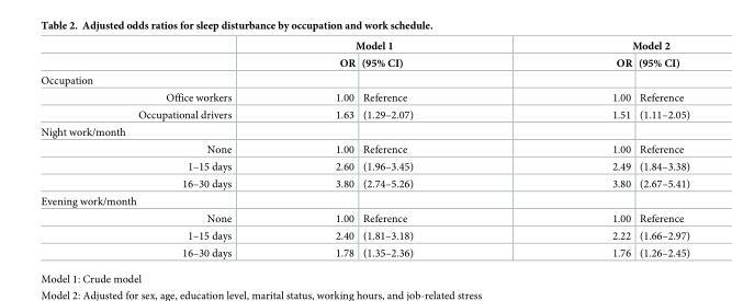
<table><thead><tr><td rowspan="2"></td><td colspan="2">Model 1</td><td colspan="2">Model 2</td></tr><tr><td>OR</td><td>(95% CI)</td><td>OR</td><td>(95% CI)</td></tr></thead><tbody><tr><td colspan="5">Occupation</td></tr><tr><td>Office workers</td><td>1.00</td><td>Reference</td><td>1.00</td><td>Reference</td></tr><tr><td>Occupational drivers</td><td>1.63</td><td>(1.29–2.07)</td><td>1.51</td><td>(1.11–2.05)</td></tr><tr><td colspan="5">Night work/month</td></tr><tr><td>None</td><td>1.00</td><td>Reference</td><td>1.00</td><td>Reference</td></tr><tr><td>1–15 days</td><td>2.60</td><td>(1.96–3.45)</td><td>2.49</td><td>(1.84–3.38)</td></tr><tr><td>16–30 days</td><td>3.80</td><td>(2.74–5.26)</td><td>3.80</td><td>(2.67–5.41)</td></tr><tr><td colspan="5">Evening work/month</td></tr><tr><td>None</td><td>1.00</td><td>Reference</td><td>1.00</td><td>Reference</td></tr><tr><td>1–15 days</td><td>2.40</td><td>(1.81–3.18)</td><td>2.22</td><td>(1.66–2.97)</td></tr><tr><td>16–30 days</td><td>1.78</td><td>(1.35–2.36)</td><td>1.76</td><td>(1.26–2.45)</td></tr></tbody></table>